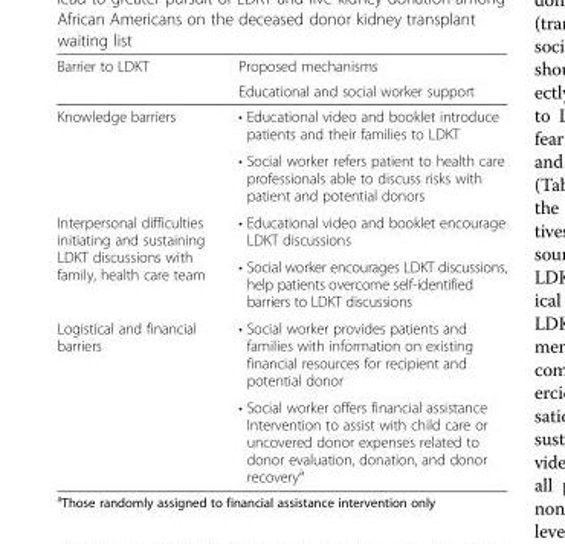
<table><thead><tr><td rowspan="2">Barrier to LDKT</td><td rowspan="2">Proposed mechanisms Educational and social worker support</td></tr><tr></tr></thead><tbody><tr><td rowspan="2">Knowledge barriers</td><td>• Educational video and booklet introduce patients and their families to LDKT</td></tr><tr><td>• Social worker refers patient to health care professionals able to discuss risks with patient and potential donors</td></tr><tr><td rowspan="2">Interpersonal difficulties initiating and sustaining LDKT discussions with family, health care team</td><td>• Educational video and booklet encourage LDKT discussions</td></tr><tr><td>• Social worker encourages LDKT discussions, help patients overcome self-identified barriers to LDKT discussions</td></tr><tr><td rowspan="2">Logistical and financial barriers</td><td>• Social worker provides patients and families with information on existing financial resources for recipient and potential donor</td></tr><tr><td>• Social worker offers financial assistance Intervention to assist with child care or uncovered donor expenses related to donor evaluation, donation, and donor recovery<sup>a</sup></td></tr></tbody></table>